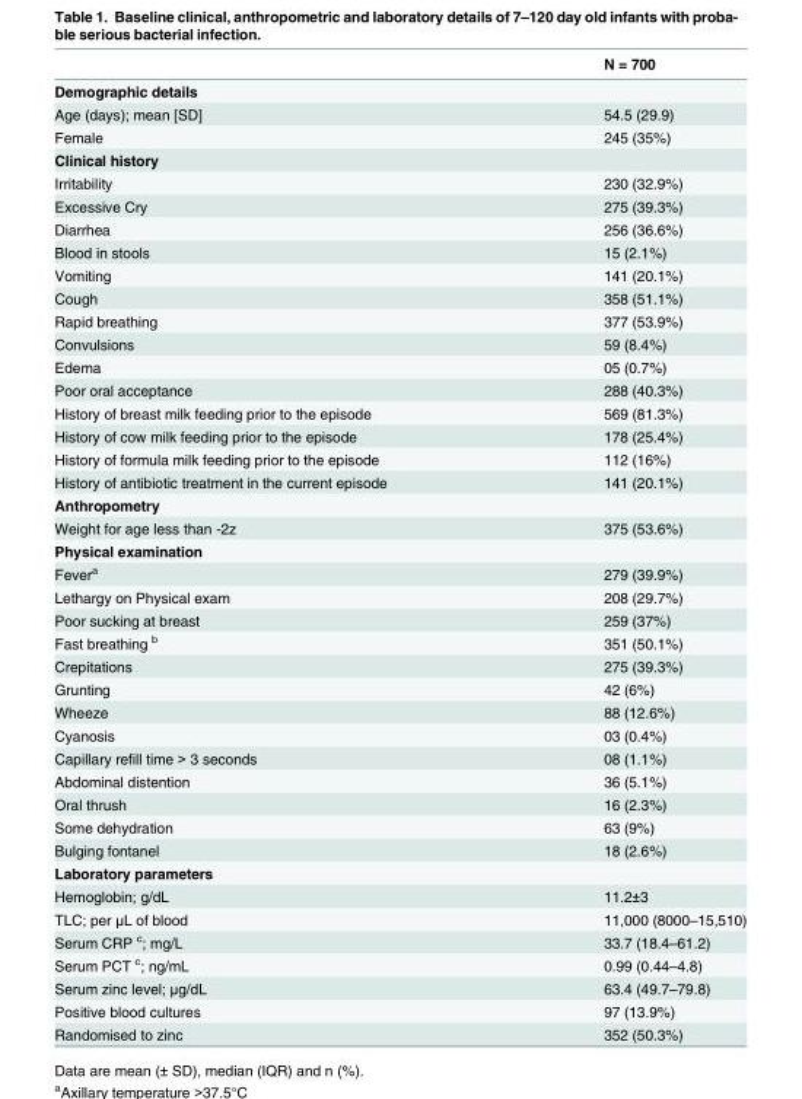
<table><thead><tr><td></td><td>N = 700</td></tr></thead><tbody><tr><td colspan="2">Demographic details</td></tr><tr><td>Age (days); mean [SD]</td><td>54.5 (29.9)</td></tr><tr><td>Female</td><td>245 (35%)</td></tr><tr><td colspan="2">Clinical history</td></tr><tr><td>Irritability</td><td>230 (32.9%)</td></tr><tr><td>Excessive Cry</td><td>275 (39.3%)</td></tr><tr><td>Diarrhea</td><td>256 (36.6%)</td></tr><tr><td>Blood in stools</td><td>15 (2.1%)</td></tr><tr><td>Vomiting</td><td>141 (20.1%)</td></tr><tr><td>Cough</td><td>358 (51.1%)</td></tr><tr><td>Rapid breathing</td><td>377 (53.9%)</td></tr><tr><td>Convulsions</td><td>59 (8.4%)</td></tr><tr><td>Edema</td><td>05 (0.7%)</td></tr><tr><td>Poor oral acceptance</td><td>288 (40.3%)</td></tr><tr><td>History of breast milk feeding prior to the episode</td><td>569 (81.3%)</td></tr><tr><td>History of cow milk feeding prior to the episode</td><td>178 (25.4%)</td></tr><tr><td>History of formula milk feeding prior to the episode</td><td>112 (16%)</td></tr><tr><td>History of antibiotic treatment in the current episode</td><td>141 (20.1%)</td></tr><tr><td colspan="2">Anthropometry</td></tr><tr><td>Weight for age less than -2z</td><td>375 (53.6%)</td></tr><tr><td colspan="2">Physical examination</td></tr><tr><td>Fever<sup>a</sup></td><td>279 (39.9%)</td></tr><tr><td>Lethargy on Physical exam</td><td>208 (29.7%)</td></tr><tr><td>Poor sucking at breast</td><td>259 (37%)</td></tr><tr><td>Fast breathing <sup>b</sup></td><td>351 (50.1%)</td></tr><tr><td>Crepitations</td><td>275 (39.3%)</td></tr><tr><td>Grunting</td><td>42 (6%)</td></tr><tr><td>Wheeze</td><td>88 (12.6%)</td></tr><tr><td>Cyanosis</td><td>03 (0.4%)</td></tr><tr><td>Capillary refill time &gt; 3 seconds</td><td>08 (1.1%)</td></tr><tr><td>Abdominal distention</td><td>36 (5.1%)</td></tr><tr><td>Oral thrush</td><td>16 (2.3%)</td></tr><tr><td>Some dehydration</td><td>63 (9%)</td></tr><tr><td>Bulging fontanel</td><td>18 (2.6%)</td></tr><tr><td colspan="2">Laboratory parameters</td></tr><tr><td>Hemoglobin; g/dL</td><td>11.2±3</td></tr><tr><td>TLC; per μL of blood</td><td>11,000 (8000–15,510)</td></tr><tr><td>Serum CRP <sup>c</sup>; mg/L</td><td>33.7 (18.4–61.2)</td></tr><tr><td>Serum PCT <sup>c</sup>; ng/mL</td><td>0.99 (0.44–4.8)</td></tr><tr><td>Serum zinc level; μg/dL</td><td>63.4 (49.7–79.8)</td></tr><tr><td>Positive blood cultures</td><td>97 (13.9%)</td></tr><tr><td>Randomised to zinc</td><td>352 (50.3%)</td></tr></tbody></table>